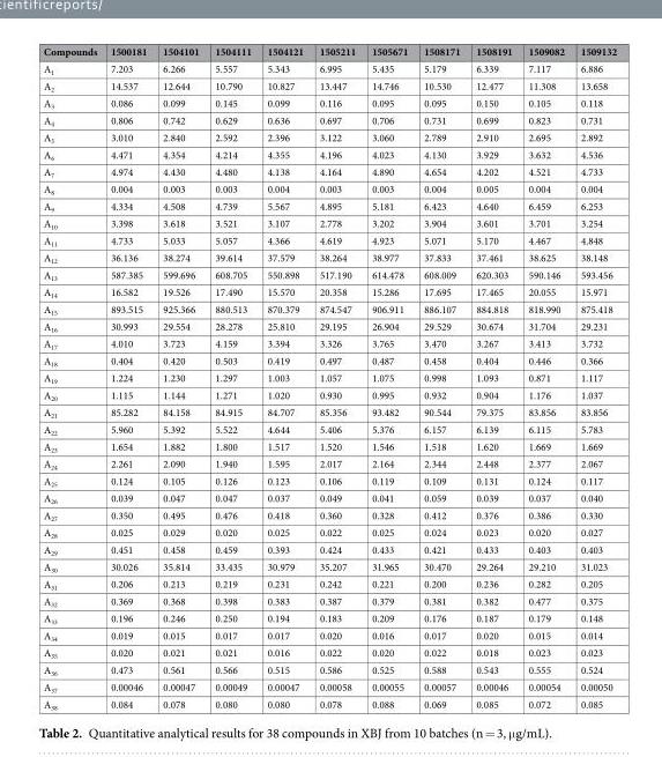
<table><thead><tr><td>Compounds</td><td>1500181</td><td>1504101</td><td>1504111</td><td>1504121</td><td>1505211</td><td>1505671</td><td>1508171</td><td>1508191</td><td>1509082</td><td>1509132</td></tr></thead><tbody><tr><td>A<sub>1</sub></td><td>7.203</td><td>6.266</td><td>5.557</td><td>5.343</td><td>6.995</td><td>5.435</td><td>5.179</td><td>6.339</td><td>7.117</td><td>6.886</td></tr><tr><td>A<sub>2</sub></td><td>14.537</td><td>12.644</td><td>10.790</td><td>10.827</td><td>13.447</td><td>14.746</td><td>10.530</td><td>12.477</td><td>11.308</td><td>13.658</td></tr><tr><td>A<sub>3</sub></td><td>0.086</td><td>0.099</td><td>0.145</td><td>0.099</td><td>0.116</td><td>0.095</td><td>0.095</td><td>0.150</td><td>0.105</td><td>0.118</td></tr><tr><td>A<sub>4</sub></td><td>0.806</td><td>0.742</td><td>0.629</td><td>0.636</td><td>0.697</td><td>0.706</td><td>0.731</td><td>0.699</td><td>0.823</td><td>0.731</td></tr><tr><td>A<sub>5</sub></td><td>3.010</td><td>2.840</td><td>2.592</td><td>2.396</td><td>3.122</td><td>3.060</td><td>2.789</td><td>2.910</td><td>2.695</td><td>2.892</td></tr><tr><td>A<sub>6</sub></td><td>4.471</td><td>4.354</td><td>4.214</td><td>4.355</td><td>4.196</td><td>4.023</td><td>4.130</td><td>3.929</td><td>3.632</td><td>4.536</td></tr><tr><td>A<sub>7</sub></td><td>4.974</td><td>4.430</td><td>4.480</td><td>4.138</td><td>4.164</td><td>4.890</td><td>4.654</td><td>4.202</td><td>4.521</td><td>4.733</td></tr><tr><td>A<sub>8</sub></td><td>0.004</td><td>0.003</td><td>0.003</td><td>0.004</td><td>0.003</td><td>0.003</td><td>0.004</td><td>0.005</td><td>0.004</td><td>0.004</td></tr><tr><td>A<sub>9</sub></td><td>4.334</td><td>4.508</td><td>4.739</td><td>5.567</td><td>4.895</td><td>5.181</td><td>6.423</td><td>4.640</td><td>6.459</td><td>6.253</td></tr><tr><td>A<sub>10</sub></td><td>3.398</td><td>3.618</td><td>3.521</td><td>3.107</td><td>2.778</td><td>3.202</td><td>3.904</td><td>3.601</td><td>3.701</td><td>3.254</td></tr><tr><td>A<sub>11</sub></td><td>4.733</td><td>5.033</td><td>5.057</td><td>4.366</td><td>4.619</td><td>4.923</td><td>5.071</td><td>5.170</td><td>4.467</td><td>4.848</td></tr><tr><td>A<sub>12</sub></td><td>36.136</td><td>38.274</td><td>39.614</td><td>37.579</td><td>38.264</td><td>38.977</td><td>37.833</td><td>37.461</td><td>38.625</td><td>38.148</td></tr><tr><td>A<sub>13</sub></td><td>587.385</td><td>599.696</td><td>608.705</td><td>550.898</td><td>517.190</td><td>614.478</td><td>608.009</td><td>620.303</td><td>590.146</td><td>593.456</td></tr><tr><td>A<sub>14</sub></td><td>16.582</td><td>19.526</td><td>17.490</td><td>15.570</td><td>20.358</td><td>15.286</td><td>17.695</td><td>17.465</td><td>20.055</td><td>15.971</td></tr><tr><td>A<sub>15</sub></td><td>893.515</td><td>925.366</td><td>880.513</td><td>870.379</td><td>874.547</td><td>906.911</td><td>886.107</td><td>884.818</td><td>818.990</td><td>875.418</td></tr><tr><td>A<sub>16</sub></td><td>30.993</td><td>29.554</td><td>28.278</td><td>25.810</td><td>29.195</td><td>26.904</td><td>29.529</td><td>30.674</td><td>31.704</td><td>29.231</td></tr><tr><td>A<sub>17</sub></td><td>4.010</td><td>3.723</td><td>4.159</td><td>3.394</td><td>3.326</td><td>3.765</td><td>3.470</td><td>3.267</td><td>3.413</td><td>3.732</td></tr><tr><td>A<sub>18</sub></td><td>0.404</td><td>0.420</td><td>0.503</td><td>0.419</td><td>0.497</td><td>0.487</td><td>0.458</td><td>0.404</td><td>0.446</td><td>0.366</td></tr><tr><td>A<sub>19</sub></td><td>1.224</td><td>1.230</td><td>1.297</td><td>1.003</td><td>1.057</td><td>1.075</td><td>0.998</td><td>1.093</td><td>0.871</td><td>1.117</td></tr><tr><td>A<sub>20</sub></td><td>1.115</td><td>1.144</td><td>1.271</td><td>1.020</td><td>0.930</td><td>0.995</td><td>0.932</td><td>0.904</td><td>1.176</td><td>1.037</td></tr><tr><td>A<sub>21</sub></td><td>85.282</td><td>84.158</td><td>84.915</td><td>84.707</td><td>85.356</td><td>93.482</td><td>90.544</td><td>79.375</td><td>83.856</td><td>83.856</td></tr><tr><td>A<sub>22</sub></td><td>5.960</td><td>5.392</td><td>5.522</td><td>4.644</td><td>5.406</td><td>5.376</td><td>6.157</td><td>6.139</td><td>6.115</td><td>5.783</td></tr><tr><td>A<sub>23</sub></td><td>1.654</td><td>1.882</td><td>1.800</td><td>1.517</td><td>1.520</td><td>1.546</td><td>1.518</td><td>1.620</td><td>1.669</td><td>1.669</td></tr><tr><td>A<sub>24</sub></td><td>2.261</td><td>2.090</td><td>1.940</td><td>1.595</td><td>2.017</td><td>2.164</td><td>2.344</td><td>2.448</td><td>2.377</td><td>2.067</td></tr><tr><td>A<sub>25</sub></td><td>0.124</td><td>0.105</td><td>0.126</td><td>0.123</td><td>0.106</td><td>0.119</td><td>0.109</td><td>0.131</td><td>0.124</td><td>0.117</td></tr><tr><td>A<sub>26</sub></td><td>0.039</td><td>0.047</td><td>0.047</td><td>0.037</td><td>0.049</td><td>0.041</td><td>0.059</td><td>0.039</td><td>0.037</td><td>0.040</td></tr><tr><td>A<sub>27</sub></td><td>0.350</td><td>0.495</td><td>0.476</td><td>0.418</td><td>0.360</td><td>0.328</td><td>0.412</td><td>0.376</td><td>0.386</td><td>0.330</td></tr><tr><td>A<sub>28</sub></td><td>0.025</td><td>0.029</td><td>0.020</td><td>0.025</td><td>0.022</td><td>0.025</td><td>0.024</td><td>0.023</td><td>0.020</td><td>0.027</td></tr><tr><td>A<sub>29</sub></td><td>0.451</td><td>0.458</td><td>0.459</td><td>0.393</td><td>0.424</td><td>0.433</td><td>0.421</td><td>0.433</td><td>0.403</td><td>0.403</td></tr><tr><td>A<sub>30</sub></td><td>30.026</td><td>35.814</td><td>33.435</td><td>30.979</td><td>35.207</td><td>31.965</td><td>30.470</td><td>29.264</td><td>29.210</td><td>31.023</td></tr><tr><td>A<sub>31</sub></td><td>0.206</td><td>0.213</td><td>0.219</td><td>0.231</td><td>0.242</td><td>0.221</td><td>0.200</td><td>0.236</td><td>0.282</td><td>0.205</td></tr><tr><td>A<sub>32</sub></td><td>0.369</td><td>0.368</td><td>0.398</td><td>0.383</td><td>0.387</td><td>0.379</td><td>0.381</td><td>0.382</td><td>0.477</td><td>0.375</td></tr><tr><td>A<sub>33</sub></td><td>0.196</td><td>0.246</td><td>0.250</td><td>0.194</td><td>0.183</td><td>0.209</td><td>0.176</td><td>0.187</td><td>0.179</td><td>0.148</td></tr><tr><td>A<sub>34</sub></td><td>0.019</td><td>0.015</td><td>0.017</td><td>0.017</td><td>0.020</td><td>0.016</td><td>0.017</td><td>0.020</td><td>0.015</td><td>0.014</td></tr><tr><td>A<sub>35</sub></td><td>0.020</td><td>0.021</td><td>0.021</td><td>0.016</td><td>0.022</td><td>0.020</td><td>0.022</td><td>0.018</td><td>0.023</td><td>0.023</td></tr><tr><td>A<sub>36</sub></td><td>0.473</td><td>0.561</td><td>0.566</td><td>0.515</td><td>0.586</td><td>0.525</td><td>0.588</td><td>0.543</td><td>0.555</td><td>0.524</td></tr><tr><td>A<sub>37</sub></td><td>0.00046</td><td>0.00047</td><td>0.00049</td><td>0.00047</td><td>0.00058</td><td>0.00055</td><td>0.00057</td><td>0.00046</td><td>0.00054</td><td>0.00050</td></tr><tr><td>A<sub>38</sub></td><td>0.084</td><td>0.078</td><td>0.080</td><td>0.080</td><td>0.078</td><td>0.088</td><td>0.069</td><td>0.085</td><td>0.072</td><td>0.085</td></tr></tbody></table>